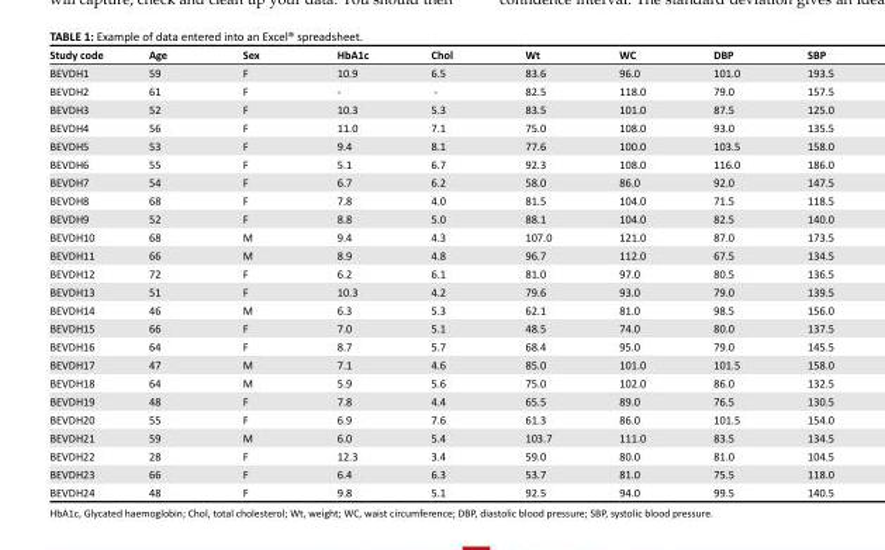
<table><thead><tr><td>Study code</td><td>Age</td><td>Sex</td><td>HbA1c</td><td>Chol</td><td>Wt</td><td>WC</td><td>DBP</td><td>SBP</td></tr></thead><tbody><tr><td>BEVDH1</td><td>59</td><td>F</td><td>10.9</td><td>6.5</td><td>83.6</td><td>96.0</td><td>101.0</td><td>193.5</td></tr><tr><td>BEVDH2</td><td>61</td><td>F</td><td>-</td><td>-</td><td>82.5</td><td>118.0</td><td>79.0</td><td>157.5</td></tr><tr><td>BEVDH3</td><td>52</td><td>F</td><td>10.3</td><td>5.3</td><td>83.5</td><td>101.0</td><td>87.5</td><td>125.0</td></tr><tr><td>BEVDH4</td><td>56</td><td>F</td><td>11.0</td><td>7.1</td><td>75.0</td><td>108.0</td><td>93.0</td><td>135.5</td></tr><tr><td>BEVDH5</td><td>53</td><td>F</td><td>9.4</td><td>8.1</td><td>77.6</td><td>100.0</td><td>103.5</td><td>158.0</td></tr><tr><td>BEVDH6</td><td>55</td><td>F</td><td>5.1</td><td>6.7</td><td>92.3</td><td>108.0</td><td>116.0</td><td>186.0</td></tr><tr><td>BEVDH7</td><td>54</td><td>F</td><td>6.7</td><td>6.2</td><td>58.0</td><td>86.0</td><td>92.0</td><td>147.5</td></tr><tr><td>BEVDH8</td><td>68</td><td>F</td><td>7.8</td><td>4.0</td><td>81.5</td><td>104.0</td><td>71.5</td><td>118.5</td></tr><tr><td>BEVDH9</td><td>52</td><td>F</td><td>8.8</td><td>5.0</td><td>88.1</td><td>104.0</td><td>82.5</td><td>140.0</td></tr><tr><td>BEVDH10</td><td>68</td><td>M</td><td>9.4</td><td>4.3</td><td>107.0</td><td>121.0</td><td>87.0</td><td>173.5</td></tr><tr><td>BEVDH11</td><td>66</td><td>M</td><td>8.9</td><td>4.8</td><td>96.7</td><td>112.0</td><td>67.5</td><td>134.5</td></tr><tr><td>BEVDH12</td><td>72</td><td>F</td><td>6.2</td><td>6.1</td><td>81.0</td><td>97.0</td><td>80.5</td><td>136.5</td></tr><tr><td>BEVDH13</td><td>51</td><td>F</td><td>10.3</td><td>4.2</td><td>79.6</td><td>93.0</td><td>79.0</td><td>139.5</td></tr><tr><td>BEVDH14</td><td>46</td><td>M</td><td>6.3</td><td>5.3</td><td>62.1</td><td>81.0</td><td>98.5</td><td>156.0</td></tr><tr><td>BEVDH15</td><td>66</td><td>F</td><td>7.0</td><td>5.1</td><td>48.5</td><td>74.0</td><td>80.0</td><td>137.5</td></tr><tr><td>BEVDH16</td><td>64</td><td>F</td><td>8.7</td><td>5.7</td><td>68.4</td><td>95.0</td><td>79.0</td><td>145.5</td></tr><tr><td>BEVDH17</td><td>47</td><td>M</td><td>7.1</td><td>4.6</td><td>85.0</td><td>101.0</td><td>101.5</td><td>158.0</td></tr><tr><td>BEVDH18</td><td>64</td><td>M</td><td>5.9</td><td>5.6</td><td>75.0</td><td>102.0</td><td>86.0</td><td>132.5</td></tr><tr><td>BEVDH19</td><td>48</td><td>F</td><td>7.8</td><td>4.4</td><td>65.5</td><td>89.0</td><td>76.5</td><td>130.5</td></tr><tr><td>BEVDH20</td><td>55</td><td>F</td><td>6.9</td><td>7.6</td><td>61.3</td><td>86.0</td><td>101.5</td><td>154.0</td></tr><tr><td>BEVDH21</td><td>59</td><td>M</td><td>6.0</td><td>5.4</td><td>103.7</td><td>111.0</td><td>83.5</td><td>134.5</td></tr><tr><td>BEVDH22</td><td>28</td><td>F</td><td>12.3</td><td>3.4</td><td>59.0</td><td>80.0</td><td>81.0</td><td>104.5</td></tr><tr><td>BEVDH23</td><td>66</td><td>F</td><td>6.4</td><td>6.3</td><td>53.7</td><td>81.0</td><td>75.5</td><td>118.0</td></tr><tr><td>BEVDH24</td><td>48</td><td>F</td><td>9.8</td><td>5.1</td><td>92.5</td><td>94.0</td><td>99.5</td><td>140.5</td></tr></tbody></table>